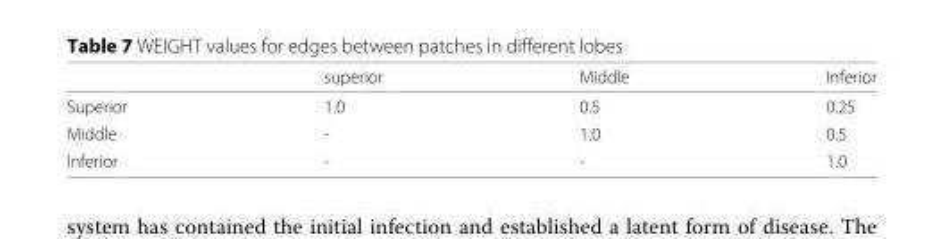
<table><thead><tr><td></td><td>superior</td><td>Middle</td><td>Inferior</td></tr></thead><tbody><tr><td>Superior</td><td>1.0</td><td>0.5</td><td>0.25</td></tr><tr><td>Middle</td><td>-</td><td>1.0</td><td>0.5</td></tr><tr><td>Inferior</td><td>-</td><td>-</td><td>1.0</td></tr></tbody></table>